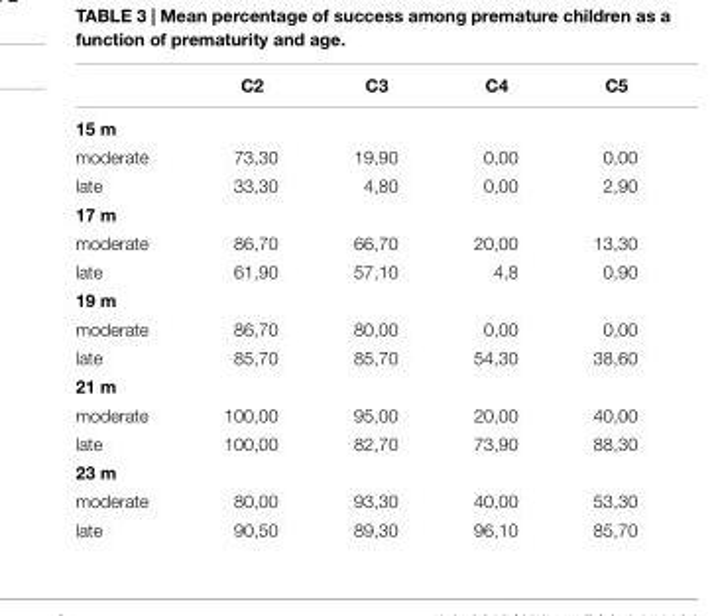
<table><thead><tr><td></td><td>C2</td><td>C3</td><td>C4</td><td>C5</td></tr></thead><tbody><tr><td colspan="5">15 m</td></tr><tr><td>moderate</td><td>73,30</td><td>19,90</td><td>0,00</td><td>0,00</td></tr><tr><td>late</td><td>33,30</td><td>4,80</td><td>0,00</td><td>2,90</td></tr><tr><td colspan="5">17 m</td></tr><tr><td>moderate</td><td>86,70</td><td>66,70</td><td>20,00</td><td>13,30</td></tr><tr><td>late</td><td>61,90</td><td>57,10</td><td>4,8</td><td>0,90</td></tr><tr><td colspan="5">19 m</td></tr><tr><td>moderate</td><td>86,70</td><td>80,00</td><td>0,00</td><td>0,00</td></tr><tr><td>late</td><td>85,70</td><td>85,70</td><td>54,30</td><td>38,60</td></tr><tr><td colspan="5">21 m</td></tr><tr><td>moderate</td><td>100,00</td><td>95,00</td><td>20,00</td><td>40,00</td></tr><tr><td>late</td><td>100,00</td><td>82,70</td><td>73,90</td><td>88,30</td></tr><tr><td colspan="5">23 m</td></tr><tr><td>moderate</td><td>80,00</td><td>93,30</td><td>40,00</td><td>53,30</td></tr><tr><td>late</td><td>90,50</td><td>89,30</td><td>96,10</td><td>85,70</td></tr></tbody></table>